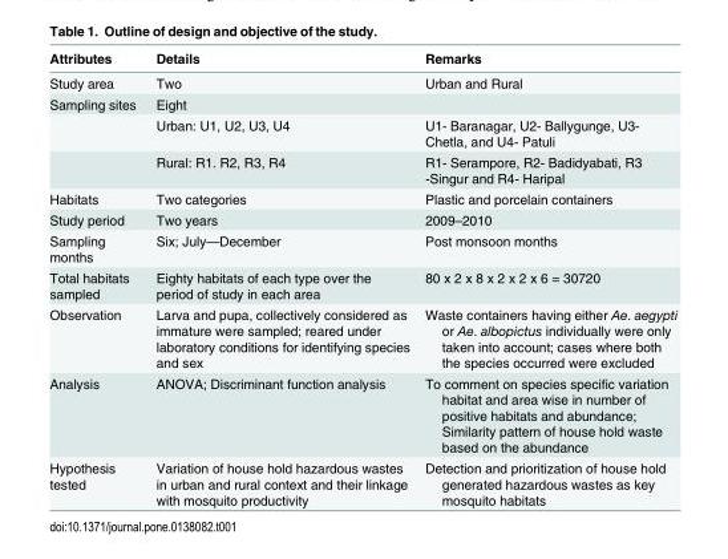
<table><thead><tr><td>Attributes</td><td>Details</td><td>Remarks</td></tr></thead><tbody><tr><td>Study area</td><td>Two</td><td>Urban and Rural</td></tr><tr><td rowspan="3">Sampling sites</td><td>Eight</td><td></td></tr><tr><td>Urban: U1, U2, U3, U4</td><td>U1- Baranagar, U2- Ballygunge, U3- Chetla, and U4- Patuli</td></tr><tr><td>Rural: R1. R2, R3, R4</td><td>R1- Serampore, R2- Badidyabati, R3 -Singur and R4- Haripal</td></tr><tr><td>Habitats</td><td>Two categories</td><td>Plastic and porcelain containers</td></tr><tr><td>Study period</td><td>Two years</td><td>2009–2010</td></tr><tr><td>Sampling months</td><td>Six; July—December</td><td>Post monsoon months</td></tr><tr><td>Total habitats sampled</td><td>Eighty habitats of each type over the period of study in each area</td><td>80 x 2 x 8 x 2 x 2 x 6 = 30720</td></tr><tr><td>Observation</td><td>Larva and pupa, collectively considered as immature were sampled; reared under laboratory conditions for identifying species and sex</td><td>Waste containers having either Ae. aegypti or Ae. albopictus individually were only taken into account; cases where both the species occurred were excluded</td></tr><tr><td>Analysis</td><td>ANOVA; Discriminant function analysis</td><td>To comment on species specific variation habitat and area wise in number of positive habitats and abundance; Similarity pattern of house hold waste based on the abundance</td></tr><tr><td>Hypothesis tested</td><td>Variation of house hold hazardous wastes in urban and rural context and their linkage with mosquito productivity</td><td>Detection and prioritization of house hold generated hazardous wastes as key mosquito habitats</td></tr></tbody></table>